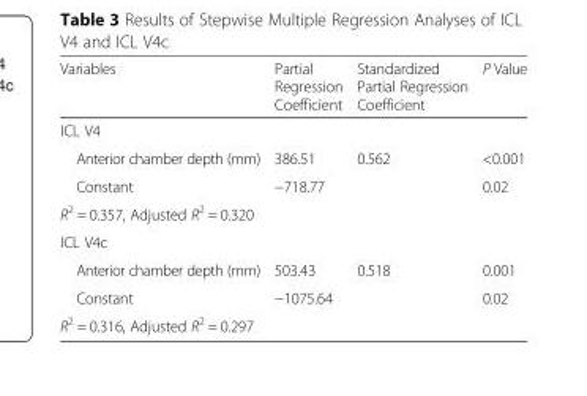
<table><thead><tr><td>Variables</td><td>Partial Regression Coefficient</td><td>Standardized Partial Regression Coefficient</td><td>P Value</td></tr></thead><tbody><tr><td colspan="4">ICL V4</td></tr><tr><td>Anterior chamber depth (mm)</td><td>386.51</td><td>0.562</td><td>&lt;0.001</td></tr><tr><td>Constant</td><td>−718.77</td><td></td><td>0.02</td></tr><tr><td colspan="4">R<sup>2</sup> = 0.357, Adjusted R<sup>2</sup> = 0.320</td></tr><tr><td colspan="4">ICL V4c</td></tr><tr><td>Anterior chamber depth (mm)</td><td>503.43</td><td>0.518</td><td>0.001</td></tr><tr><td>Constant</td><td>−1075.64</td><td></td><td>0.02</td></tr><tr><td colspan="4">R<sup>2</sup> = 0.316, Adjusted R<sup>2</sup> = 0.297</td></tr></tbody></table>